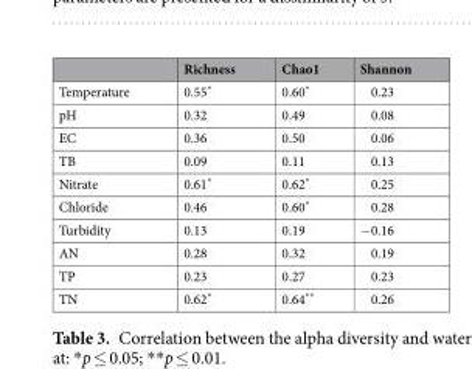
<table><thead><tr><td></td><td>Richness</td><td>Chao1</td><td>Shannon</td></tr></thead><tbody><tr><td>Temperature</td><td>0.55*</td><td>0.60*</td><td>0.23</td></tr><tr><td>pH</td><td>0.32</td><td>0.49</td><td>0.08</td></tr><tr><td>EC</td><td>0.36</td><td>0.50</td><td>0.06</td></tr><tr><td>TB</td><td>0.09</td><td>0.11</td><td>0.13</td></tr><tr><td>Nitrate</td><td>0.61*</td><td>0.62*</td><td>0.25</td></tr><tr><td>Chloride</td><td>0.46</td><td>0.60*</td><td>0.28</td></tr><tr><td>Turbidity</td><td>0.13</td><td>0.19</td><td>−0.16</td></tr><tr><td>AN</td><td>0.28</td><td>0.32</td><td>0.19</td></tr><tr><td>TP</td><td>0.23</td><td>0.27</td><td>0.23</td></tr><tr><td>TN</td><td>0.62*</td><td>0.64**</td><td>0.26</td></tr></tbody></table>